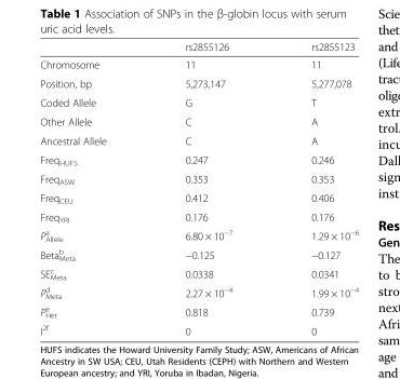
<table><thead><tr><td></td><td>rs2855126</td><td>rs2855123</td></tr></thead><tbody><tr><td>Chromosome</td><td>11</td><td>11</td></tr><tr><td>Position, bp</td><td>5,273,147</td><td>5,277,078</td></tr><tr><td>Coded Allele</td><td>G</td><td>T</td></tr><tr><td>Other Allele</td><td>C</td><td>A</td></tr><tr><td>Ancestral Allele</td><td>C</td><td>A</td></tr><tr><td>Freq<sub>HUFS</sub></td><td>0.247</td><td>0.246</td></tr><tr><td>Freq<sub>ASW</sub></td><td>0.353</td><td>0.353</td></tr><tr><td>Freq<sub>CEU</sub></td><td>0.412</td><td>0.406</td></tr><tr><td>Freq<sub>YRI</sub></td><td>0.176</td><td>0.176</td></tr><tr><td>P<sub>Allele</sub> <sup>a</sup></td><td>6.80 × 10<sup>−7</sup></td><td>1.29 × 10<sup>−6</sup></td></tr><tr><td>Beta<sub>Meta</sub> <sup>b</sup></td><td>−0.125</td><td>−0.127</td></tr><tr><td>SE<sub>Meta</sub> <sup>c</sup></td><td>0.0338</td><td>0.0341</td></tr><tr><td>P<sub>Meta</sub> <sup>d</sup></td><td>2.27 × 10<sup>−4</sup></td><td>1.99 × 10<sup>−4</sup></td></tr><tr><td>P<sub>Het</sub> <sup>e</sup></td><td>0.818</td><td>0.739</td></tr><tr><td>I<sup>2f</sup></td><td>0</td><td>0</td></tr></tbody></table>